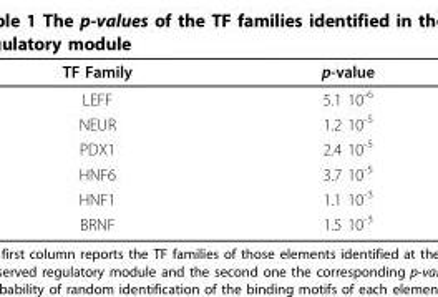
<table><thead><tr><td>TF Family</td><td>p-value</td></tr></thead><tbody><tr><td>LEFF</td><td>5.1 10<sup>-6</sup></td></tr><tr><td>NEUR</td><td>1.2 10<sup>-5</sup></td></tr><tr><td>PDX1</td><td>2.4 10<sup>-5</sup></td></tr><tr><td>HNF6</td><td>3.7 10<sup>-5</sup></td></tr><tr><td>HNF1</td><td>1.1 10<sup>-3</sup></td></tr><tr><td>BRNF</td><td>1.5 10<sup>-3</sup></td></tr></tbody></table>